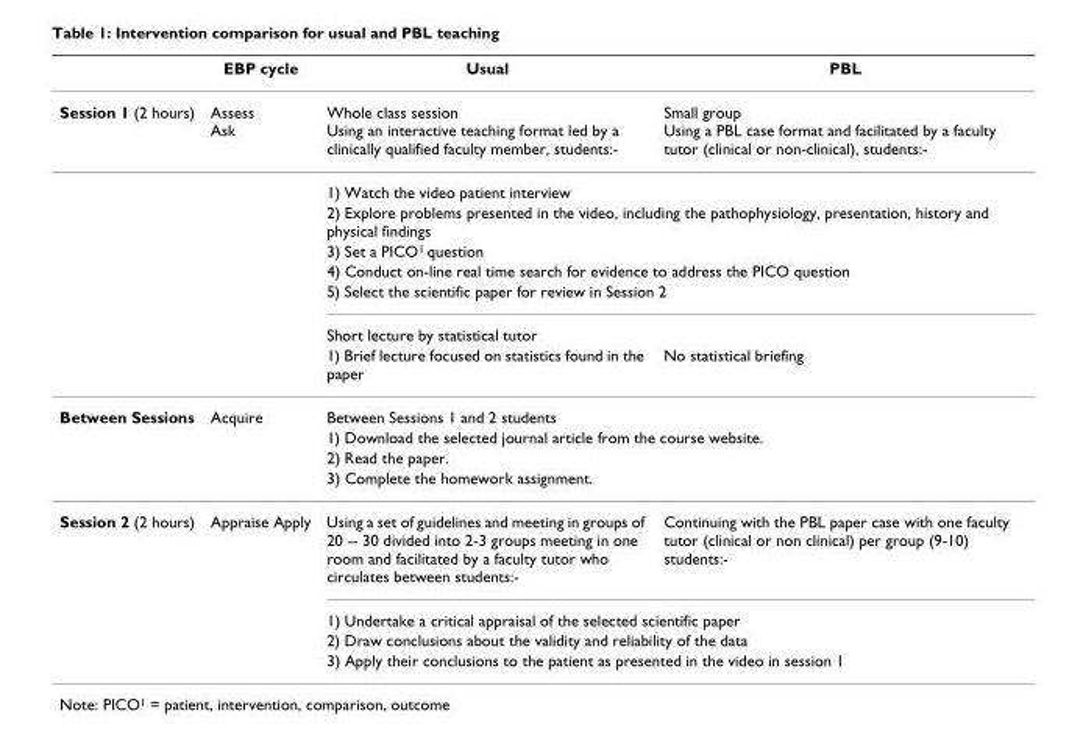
<table><thead><tr><td></td><td>EBP cycle</td><td>Usual</td><td>PBL</td></tr></thead><tbody><tr><td rowspan="8">Session 1 (2 hours)</td><td>Assess Ask</td><td>Whole class session Using an interactive teaching format led by a clinically qualified faculty member, students:-</td><td>Small group Using a PBL case format and facilitated by a faculty tutor (clinical or non-clinical), students:-</td></tr><tr><td></td><td colspan="2">1) Watch the video patient interview</td></tr><tr><td></td><td colspan="2">2) Explore problems presented in the video, including the pathophysiology, presentation, history and physical findings</td></tr><tr><td></td><td colspan="2">3) Set a PICO<sup>1</sup> question</td></tr><tr><td></td><td colspan="2">4) Conduct on-line real time search for evidence to address the PICO question</td></tr><tr><td></td><td colspan="2">5) Select the scientific paper for review in Session 2</td></tr><tr><td></td><td colspan="2">Short lecture by statistical tutor</td></tr><tr><td></td><td>1) Brief lecture focused on statistics found in the paper</td><td>No statistical briefing</td></tr><tr><td rowspan="4">Between Sessions</td><td>Acquire</td><td colspan="2">Between Sessions 1 and 2 students</td></tr><tr><td></td><td colspan="2">1) Download the selected journal article from the course website.</td></tr><tr><td></td><td colspan="2">2) Read the paper.</td></tr><tr><td></td><td colspan="2">3) Complete the homework assignment.</td></tr><tr><td rowspan="4">Session 2 (2 hours)</td><td>Appraise Apply</td><td>Using a set of guidelines and meeting in groups of 20 -- 30 divided into 2-3 groups meeting in one room and facilitated by a faculty tutor who circulates between students:-</td><td>Continuing with the PBL paper case with one faculty tutor (clinical or non clinical) per group (9-10) students:-</td></tr><tr><td></td><td colspan="2">1) Undertake a critical appraisal of the selected scientific paper</td></tr><tr><td></td><td colspan="2">2) Draw conclusions about the validity and reliability of the data</td></tr><tr><td></td><td colspan="2">3) Apply their conclusions to the patient as presented in the video in session 1</td></tr></tbody></table>